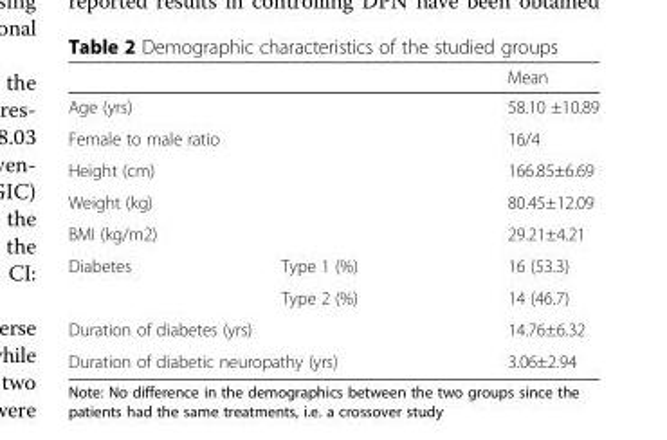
<table><thead><tr><td></td><td></td><td>Mean</td></tr></thead><tbody><tr><td colspan="2">Age (yrs)</td><td>58.10 ±10.89</td></tr><tr><td colspan="2">Female to male ratio</td><td>16/4</td></tr><tr><td colspan="2">Height (cm)</td><td>166.85±6.69</td></tr><tr><td colspan="2">Weight (kg)</td><td>80.45±12.09</td></tr><tr><td colspan="2">BMI (kg/m2)</td><td>29.21±4.21</td></tr><tr><td rowspan="2">Diabetes</td><td>Type 1 (%)</td><td>16 (53.3)</td></tr><tr><td>Type 2 (%)</td><td>14 (46.7)</td></tr><tr><td colspan="2">Duration of diabetes (yrs)</td><td>14.76±6.32</td></tr><tr><td colspan="2">Duration of diabetic neuropathy (yrs)</td><td>3.06±2.94</td></tr></tbody></table>